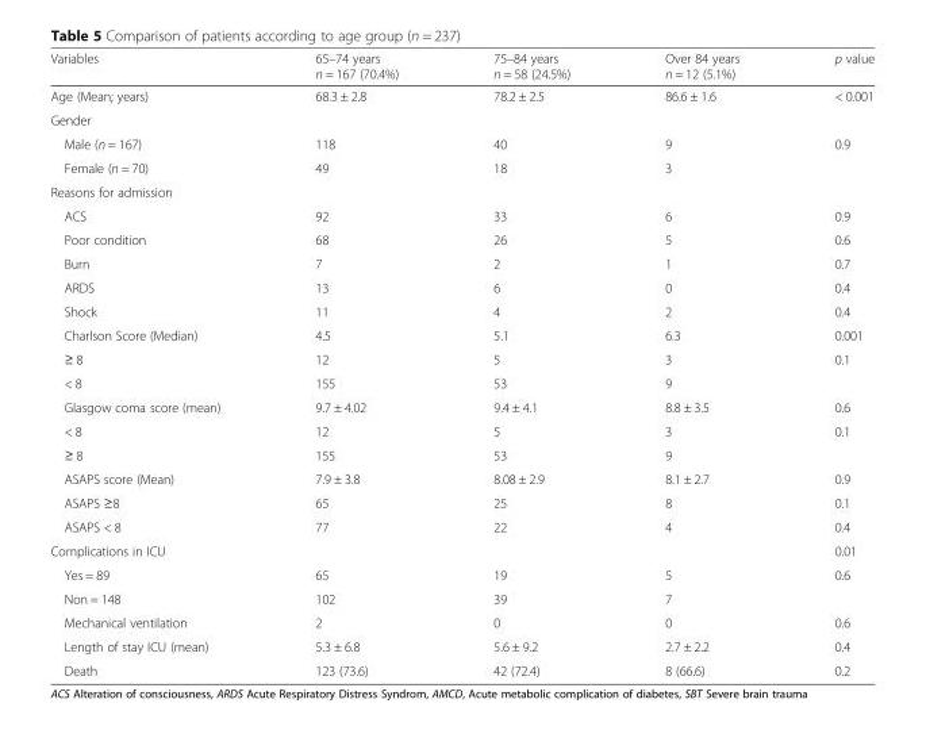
<table><thead><tr><td>Variables</td><td>65–74 years n = 167 (70.4%)</td><td>75–84 years n = 58 (24.5%)</td><td>Over 84 years n = 12 (5.1%)</td><td>p value</td></tr></thead><tbody><tr><td>Age (Mean; years)</td><td>68.3 ± 2.8</td><td>78.2 ± 2.5</td><td>86.6 ± 1.6</td><td>&lt; 0.001</td></tr><tr><td colspan="5">Gender</td></tr><tr><td>Male (n = 167)</td><td>118</td><td>40</td><td>9</td><td>0.9</td></tr><tr><td>Female (n = 70)</td><td>49</td><td>18</td><td>3</td><td></td></tr><tr><td colspan="5">Reasons for admission</td></tr><tr><td>ACS</td><td>92</td><td>33</td><td>6</td><td>0.9</td></tr><tr><td>Poor condition</td><td>68</td><td>26</td><td>5</td><td>0.6</td></tr><tr><td>Burn</td><td>7</td><td>2</td><td>1</td><td>0.7</td></tr><tr><td>ARDS</td><td>13</td><td>6</td><td>0</td><td>0.4</td></tr><tr><td>Shock</td><td>11</td><td>4</td><td>2</td><td>0.4</td></tr><tr><td>Charlson Score (Median)</td><td>4.5</td><td>5.1</td><td>6.3</td><td>0.001</td></tr><tr><td>≥ 8</td><td>12</td><td>5</td><td>3</td><td>0.1</td></tr><tr><td>&lt; 8</td><td>155</td><td>53</td><td>9</td><td></td></tr><tr><td>Glasgow coma score (mean)</td><td>9.7 ± 4.02</td><td>9.4 ± 4.1</td><td>8.8 ± 3.5</td><td>0.6</td></tr><tr><td>&lt; 8</td><td>12</td><td>5</td><td>3</td><td>0.1</td></tr><tr><td>≥ 8</td><td>155</td><td>53</td><td>9</td><td></td></tr><tr><td>ASAPS score (Mean)</td><td>7.9 ± 3.8</td><td>8.08 ± 2.9</td><td>8.1 ± 2.7</td><td>0.9</td></tr><tr><td>ASAPS ≥8</td><td>65</td><td>25</td><td>8</td><td>0.1</td></tr><tr><td>ASAPS &lt; 8</td><td>77</td><td>22</td><td>4</td><td>0.4</td></tr><tr><td>Complications in ICU</td><td></td><td></td><td></td><td>0.01</td></tr><tr><td>Yes = 89</td><td>65</td><td>19</td><td>5</td><td>0.6</td></tr><tr><td>Non = 148</td><td>102</td><td>39</td><td>7</td><td></td></tr><tr><td>Mechanical ventilation</td><td>2</td><td>0</td><td>0</td><td>0.6</td></tr><tr><td>Length of stay ICU (mean)</td><td>5.3 ± 6.8</td><td>5.6 ± 9.2</td><td>2.7 ± 2.2</td><td>0.4</td></tr><tr><td>Death</td><td>123 (73.6)</td><td>42 (72.4)</td><td>8 (66.6)</td><td>0.2</td></tr></tbody></table>